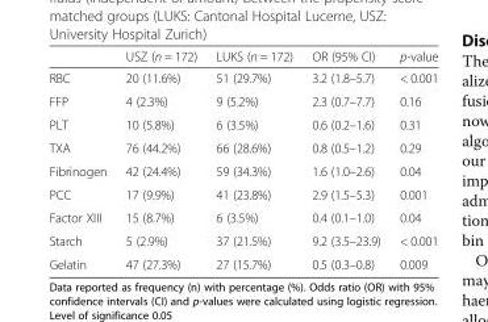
<table><thead><tr><td></td><td>USZ (n = 172)</td><td>LUKS (n = 172)</td><td>OR (95% CI)</td><td>p-value</td></tr></thead><tbody><tr><td>RBC</td><td>20 (11.6%)</td><td>51 (29.7%)</td><td>3.2 (1.8–5.7)</td><td>&lt; 0.001</td></tr><tr><td>FFP</td><td>4 (2.3%)</td><td>9 (5.2%)</td><td>2.3 (0.7–7.7)</td><td>0.16</td></tr><tr><td>PLT</td><td>10 (5.8%)</td><td>6 (3.5%)</td><td>0.6 (0.2–1.6)</td><td>0.31</td></tr><tr><td>TXA</td><td>76 (44.2%)</td><td>66 (28.6%)</td><td>0.8 (0.5–1.2)</td><td>0.29</td></tr><tr><td>Fibrinogen</td><td>42 (24.4%)</td><td>59 (34.3%)</td><td>1.6 (1.0–2.6)</td><td>0.04</td></tr><tr><td>PCC</td><td>17 (9.9%)</td><td>41 (23.8%)</td><td>2.9 (1.5–5.3)</td><td>0.001</td></tr><tr><td>Factor XIII</td><td>15 (8.7%)</td><td>6 (3.5%)</td><td>0.4 (0.1–1.0)</td><td>0.04</td></tr><tr><td>Starch</td><td>5 (2.9%)</td><td>37 (21.5%)</td><td>9.2 (3.5–23.9)</td><td>&lt; 0.001</td></tr><tr><td>Gelatin</td><td>47 (27.3%)</td><td>27 (15.7%)</td><td>0.5 (0.3–0.8)</td><td>0.009</td></tr></tbody></table>